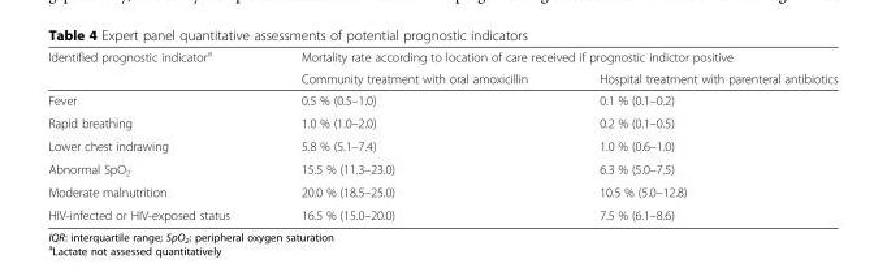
<table><thead><tr><td rowspan="2">Identified prognostic indicator<sup>a</sup></td><td colspan="2">Mortality rate according to location of care received if prognostic indictor positive</td></tr><tr><td>Community treatment with oral amoxicillin</td><td>Hospital treatment with parenteral antibiotics</td></tr></thead><tbody><tr><td>Fever</td><td>0.5 % (0.5–1.0)</td><td>0.1 % (0.1–0.2)</td></tr><tr><td>Rapid breathing</td><td>1.0 % (1.0–2.0)</td><td>0.2 % (0.1–0.5)</td></tr><tr><td>Lower chest indrawing</td><td>5.8 % (5.1–7.4)</td><td>1.0 % (0.6–1.0)</td></tr><tr><td>Abnormal SpO<sub>2</sub></td><td>15.5 % (11.3–23.0)</td><td>6.3 % (5.0–7.5)</td></tr><tr><td>Moderate malnutrition</td><td>20.0 % (18.5–25.0)</td><td>10.5 % (5.0–12.8)</td></tr><tr><td>HIV-infected or HIV-exposed status</td><td>16.5 % (15.0–20.0)</td><td>7.5 % (6.1–8.6)</td></tr></tbody></table>